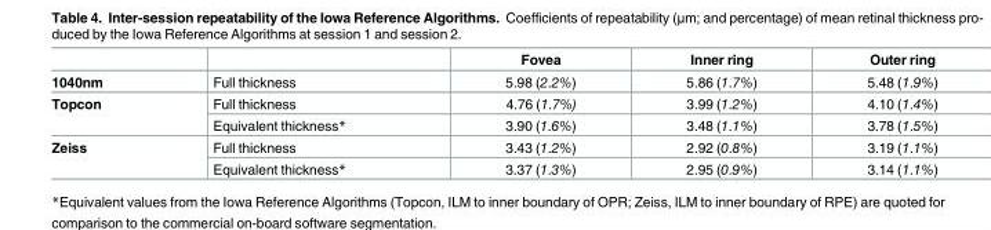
<table><thead><tr><td></td><td></td><td>Fovea</td><td>Inner ring</td><td>Outer ring</td></tr></thead><tbody><tr><td>1040nm</td><td>Full thickness</td><td>5.98 (2.2%)</td><td>5.86 (1.7%)</td><td>5.48 (1.9%)</td></tr><tr><td rowspan="2">Topcon</td><td>Full thickness</td><td>4.76 (1.7%)</td><td>3.99 (1.2%)</td><td>4.10 (1.4%)</td></tr><tr><td>Equivalent thickness*</td><td>3.90 (1.6%)</td><td>3.48 (1.1%)</td><td>3.78 (1.5%)</td></tr><tr><td rowspan="2">Zeiss</td><td>Full thickness</td><td>3.43 (1.2%)</td><td>2.92 (0.8%)</td><td>3.19 (1.1%)</td></tr><tr><td>Equivalent thickness*</td><td>3.37 (1.3%)</td><td>2.95 (0.9%)</td><td>3.14 (1.1%)</td></tr></tbody></table>